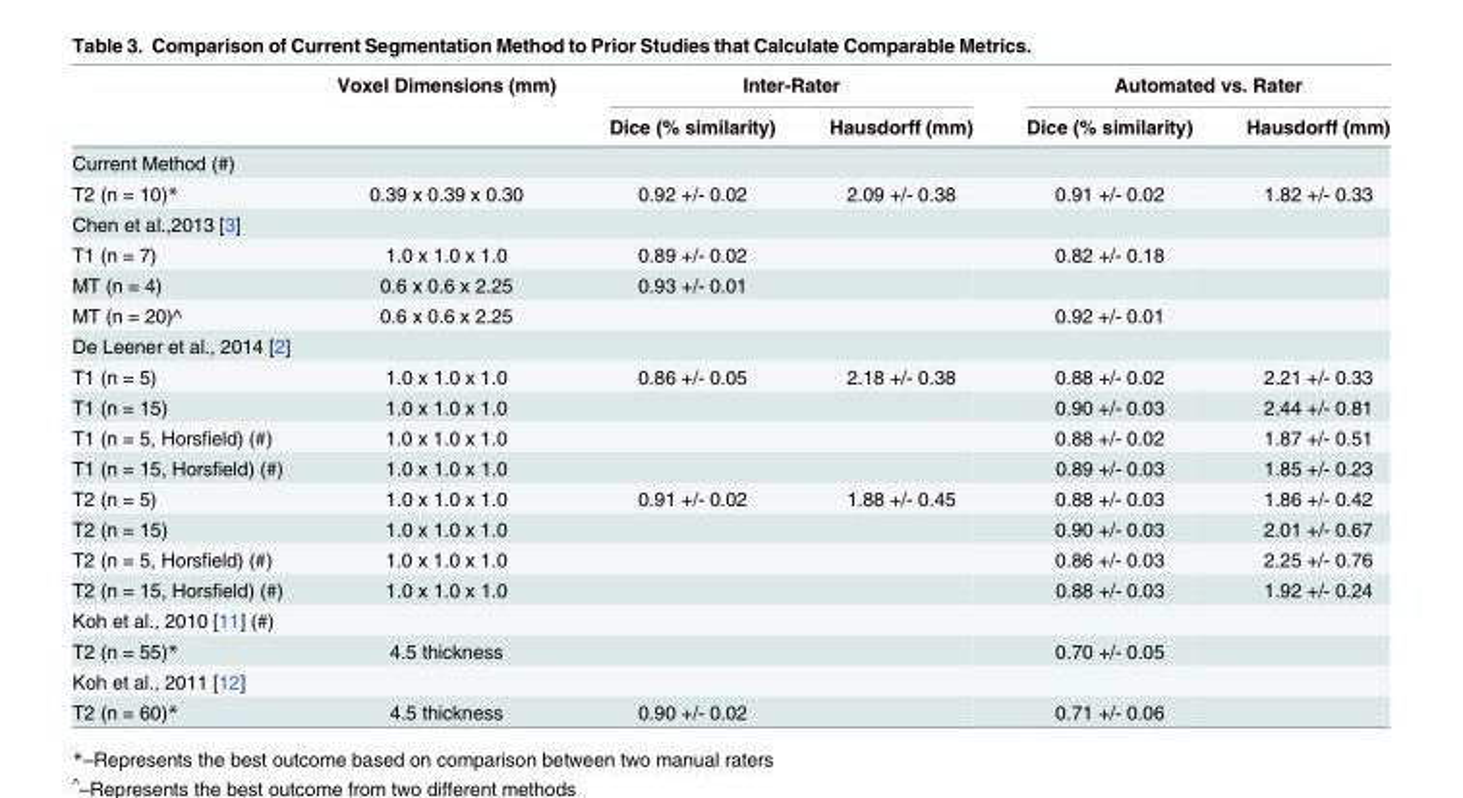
<table><thead><tr><td rowspan="2"></td><td rowspan="2">Voxel Dimensions (mm)</td><td colspan="2">Inter-Rater</td><td colspan="2">Automated vs. Rater</td></tr><tr><td>Dice (% similarity)</td><td>Hausdorff (mm)</td><td>Dice (% similarity)</td><td>Hausdorff (mm)</td></tr></thead><tbody><tr><td colspan="6">Current Method (#)</td></tr><tr><td>T2 (n = 10)*</td><td>0.39 x 0.39 x 0.30</td><td>0.92 +/- 0.02</td><td>2.09 +/- 0.38</td><td>0.91 +/- 0.02</td><td>1.82 +/- 0.33</td></tr><tr><td colspan="6">Chen et al.,2013 [3]</td></tr><tr><td>T1 (n = 7)</td><td>1.0 x 1.0 x 1.0</td><td>0.89 +/- 0.02</td><td></td><td>0.82 +/- 0.18</td><td></td></tr><tr><td>MT (n = 4)</td><td>0.6 x 0.6 x 2.25</td><td>0.93 +/- 0.01</td><td></td><td></td><td></td></tr><tr><td>MT (n = 20)^</td><td>0.6 x 0.6 x 2.25</td><td></td><td></td><td>0.92 +/- 0.01</td><td></td></tr><tr><td colspan="6">De Leener et al., 2014 [2]</td></tr><tr><td>T1 (n = 5)</td><td>1.0 x 1.0 x 1.0</td><td>0.86 +/- 0.05</td><td>2.18 +/- 0.38</td><td>0.88 +/- 0.02</td><td>2.21 +/- 0.33</td></tr><tr><td>T1 (n = 15)</td><td>1.0 x 1.0 x 1.0</td><td></td><td></td><td>0.90 +/- 0.03</td><td>2.44 +/- 0.81</td></tr><tr><td>T1 (n = 5, Horsfield) (#)</td><td>1.0 x 1.0 x 1.0</td><td></td><td></td><td>0.88 +/- 0.02</td><td>1.87 +/- 0.51</td></tr><tr><td>T1 (n = 15, Horsfield) (#)</td><td>1.0 x 1.0 x 1.0</td><td></td><td></td><td>0.89 +/- 0.03</td><td>1.85 +/- 0.23</td></tr><tr><td>T2 (n = 5)</td><td>1.0 x 1.0 x 1.0</td><td>0.91 +/- 0.02</td><td>1.88 +/- 0.45</td><td>0.88 +/- 0.03</td><td>1.86 +/- 0.42</td></tr><tr><td>T2 (n = 15)</td><td>1.0 x 1.0 x 1.0</td><td></td><td></td><td>0.90 +/- 0.03</td><td>2.01 +/- 0.67</td></tr><tr><td>T2 (n = 5, Horsfield) (#)</td><td>1.0 x 1.0 x 1.0</td><td></td><td></td><td>0.86 +/- 0.03</td><td>2.25 +/- 0.76</td></tr><tr><td>T2 (n = 15, Horsfield) (#)</td><td>1.0 x 1.0 x 1.0</td><td></td><td></td><td>0.88 +/- 0.03</td><td>1.92 +/- 0.24</td></tr><tr><td colspan="6">Koh et al., 2010 [11] (#)</td></tr><tr><td>T2 (n = 55)*</td><td>4.5 thickness</td><td></td><td></td><td>0.70 +/- 0.05</td><td></td></tr><tr><td colspan="6">Koh et al., 2011 [12]</td></tr><tr><td>T2 (n = 60)*</td><td>4.5 thickness</td><td>0.90 +/- 0.02</td><td></td><td>0.71 +/- 0.06</td><td></td></tr></tbody></table>